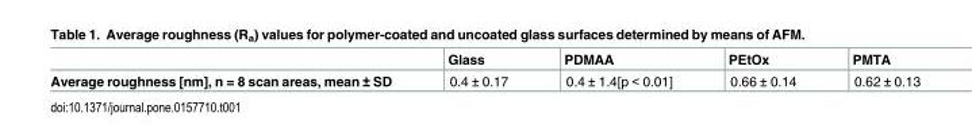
<table><thead><tr><td></td><td>Glass</td><td>PDMAA</td><td>PEtOx</td><td>PMTA</td></tr></thead><tbody><tr><td>Average roughness [nm], n = 8 scan areas, mean ± SD</td><td>0.4 ± 0.17</td><td>0.4 ± 1.4[p &lt; 0.01]</td><td>0.66 ± 0.14</td><td>0.62 ± 0.13</td></tr></tbody></table>